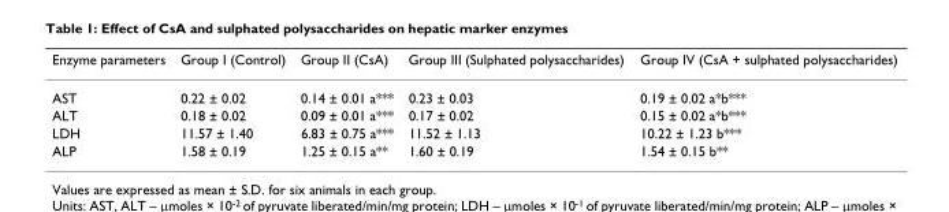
<table><thead><tr><td>Enzyme parameters</td><td>Group I (Control)</td><td>Group II (CsA)</td><td>Group III (Sulphated polysaccharides)</td><td>Group IV (CsA + sulphated polysaccharides)</td></tr></thead><tbody><tr><td>AST</td><td>0.22 ± 0.02</td><td>0.14 ± 0.01 a***</td><td>0.23 ± 0.03</td><td>0.19 ± 0.02 a*b***</td></tr><tr><td>ALT</td><td>0.18 ± 0.02</td><td>0.09 ± 0.01 a***</td><td>0.17 ± 0.02</td><td>0.15 ± 0.02 a*b***</td></tr><tr><td>LDH</td><td>11.57 ± 1.40</td><td>6.83 ± 0.75 a***</td><td>11.52 ± 1.13</td><td>10.22 ± 1.23 b***</td></tr><tr><td>ALP</td><td>1.58 ± 0.19</td><td>1.25 ± 0.15 a**</td><td>1.60 ± 0.19</td><td>1.54 ± 0.15 b**</td></tr></tbody></table>